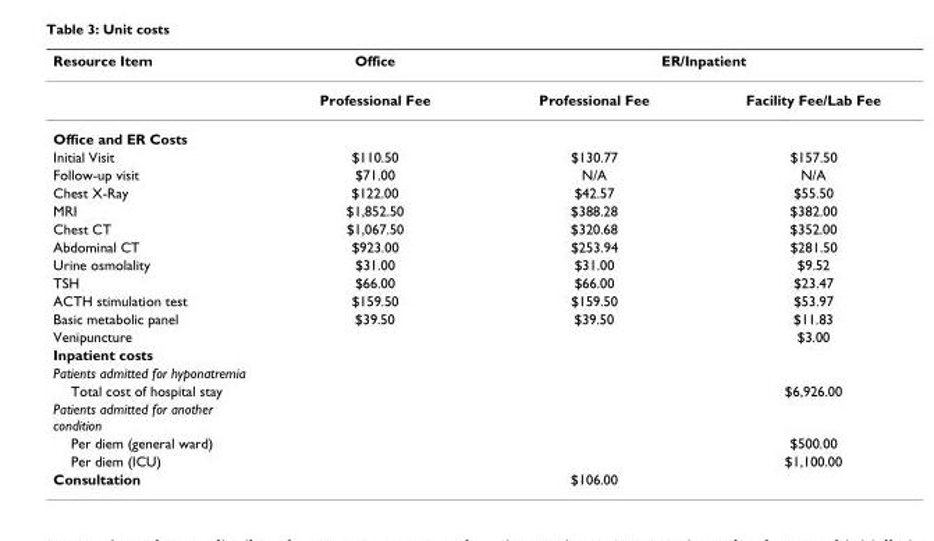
<table><thead><tr><td rowspan="2">Resource Item</td><td rowspan="2">Office Professional Fee</td><td colspan="2">ER/Inpatient</td></tr><tr><td>Professional Fee</td><td>Facility Fee/Lab Fee</td></tr></thead><tbody><tr><td colspan="4">Office and ER Costs</td></tr><tr><td>Initial Visit</td><td>$110.50</td><td>$130.77</td><td>$157.50</td></tr><tr><td>Follow-up visit</td><td>$71.00</td><td>N/A</td><td>N/A</td></tr><tr><td>Chest X-Ray</td><td>$122.00</td><td>$42.57</td><td>$55.50</td></tr><tr><td>MRI</td><td>$1,852.50</td><td>$388.28</td><td>$382.00</td></tr><tr><td>Chest CT</td><td>$1,067.50</td><td>$320.68</td><td>$352.00</td></tr><tr><td>Abdominal CT</td><td>$923.00</td><td>$253.94</td><td>$281.50</td></tr><tr><td>Urine osmolality</td><td>$31.00</td><td>$31.00</td><td>$9.52</td></tr><tr><td>TSH</td><td>$66.00</td><td>$66.00</td><td>$23.47</td></tr><tr><td>ACTH stimulation test</td><td>$159.50</td><td>$159.50</td><td>$53.97</td></tr><tr><td>Basic metabolic panel</td><td>$39.50</td><td>$39.50</td><td>$11.83</td></tr><tr><td>Venipuncture</td><td></td><td></td><td>$3.00</td></tr><tr><td colspan="4">Inpatient costs</td></tr><tr><td colspan="4">Patients admitted for hyponatremia</td></tr><tr><td>Total cost of hospital stay</td><td></td><td></td><td>$6,926.00</td></tr><tr><td colspan="4">Patients admitted for another condition</td></tr><tr><td>Per diem (general ward)</td><td></td><td></td><td>$500.00</td></tr><tr><td>Per diem (ICU)</td><td></td><td></td><td>$1,100.00</td></tr><tr><td>Consultation</td><td></td><td>$106.00</td><td></td></tr></tbody></table>